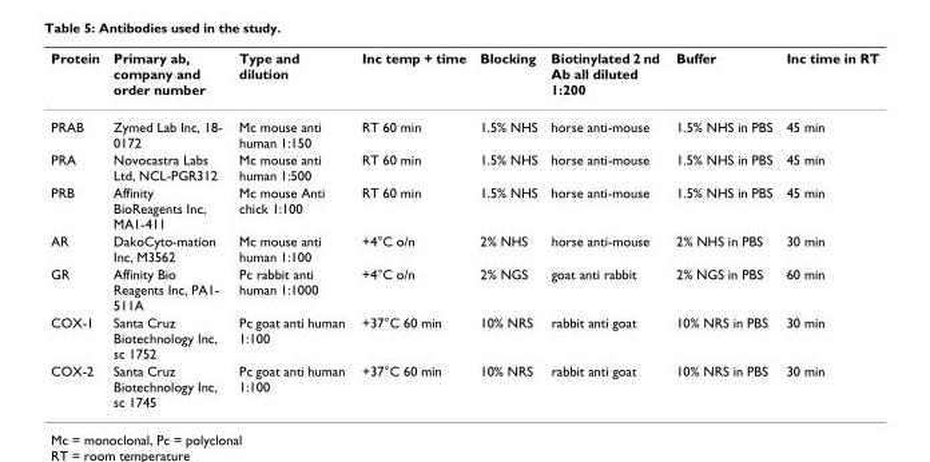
<table><thead><tr><td>Protein</td><td>Primary ab, company and order number</td><td>Type and dilution</td><td>Inc temp + time</td><td>Blocking</td><td>Biotinylated 2 nd Ab all diluted 1:200</td><td>Buffer</td><td>Inc time in RT</td></tr></thead><tbody><tr><td>PRAB</td><td>Zymed Lab Inc, 18- 0172</td><td>Mc mouse anti human 1:150</td><td>RT 60 min</td><td>1.5% NHS</td><td>horse anti-mouse</td><td>1.5% NHS in PBS</td><td>45 min</td></tr><tr><td>PRA</td><td>Novocastra Labs Ltd, NCL-PGR312</td><td>Mc mouse anti human 1:500</td><td>RT 60 min</td><td>1.5% NHS</td><td>horse anti-mouse</td><td>1.5% NHS in PBS</td><td>45 min</td></tr><tr><td>PRB</td><td>Affinity BioReagents Inc, MA1-411</td><td>Mc mouse Anti chick 1:100</td><td>RT 60 min</td><td>1.5% NHS</td><td>horse anti-mouse</td><td>1.5% NHS in PBS</td><td>45 min</td></tr><tr><td>AR</td><td>DakoCyto-mation Inc, M3562</td><td>Mc mouse anti human 1:100</td><td>+4°C o/n</td><td>2% NHS</td><td>horse anti-mouse</td><td>2% NHS in PBS</td><td>30 min</td></tr><tr><td>GR</td><td>Affinity Bio Reagents Inc, PA1- 511A</td><td>Pc rabbit anti human 1:1000</td><td>+4°C o/n</td><td>2% NGS</td><td>goat anti rabbit</td><td>2% NGS in PBS</td><td>60 min</td></tr><tr><td>COX-1</td><td>Santa Cruz Biotechnology Inc, sc 1752</td><td>Pc goat anti human 1:100</td><td>+37°C 60 min</td><td>10% NRS</td><td>rabbit anti goat</td><td>10% NRS in PBS</td><td>30 min</td></tr><tr><td>COX-2</td><td>Santa Cruz Biotechnology Inc, sc 1745</td><td>Pc goat anti human 1:100</td><td>+37°C 60 min</td><td>10% NRS</td><td>rabbit anti goat</td><td>10% NRS in PBS</td><td>30 min</td></tr></tbody></table>